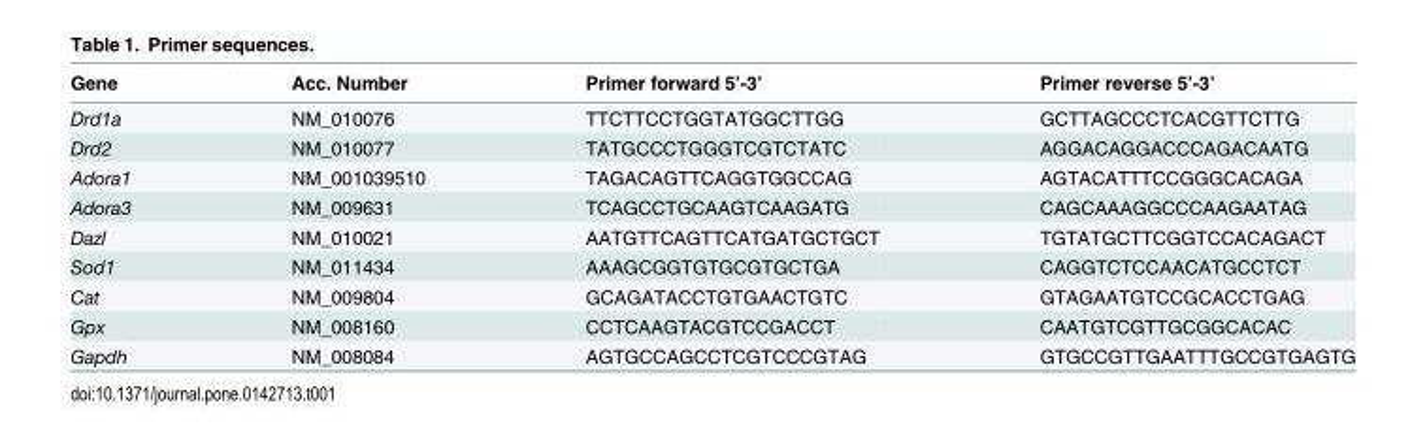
<table><thead><tr><td>Gene</td><td>Acc. Number</td><td>Primer forward 5’-3’</td><td>Primer reverse 5’-3’</td></tr></thead><tbody><tr><td>Drd1a</td><td>NM_010076</td><td>TTCTTCCTGGTATGGCTTGG</td><td>GCTTAGCCCTCACGTTCTTG</td></tr><tr><td>Drd2</td><td>NM_010077</td><td>TATGCCCTGGGTCGTCTATC</td><td>AGGACAGGACCCAGACAATG</td></tr><tr><td>Adora1</td><td>NM_001039510</td><td>TAGACAGTTCAGGTGGCCAG</td><td>AGTACATTTCCGGGCACAGA</td></tr><tr><td>Adora3</td><td>NM_009631</td><td>TCAGCCTGCAAGTCAAGATG</td><td>CAGCAAAGGCCCAAGAATAG</td></tr><tr><td>Dazl</td><td>NM_010021</td><td>AATGTTCAGTTCATGATGCTGCT</td><td>TGTATGCTTCGGTCCACAGACT</td></tr><tr><td>Sod1</td><td>NM_011434</td><td>AAAGCGGTGTGCGTGCTGA</td><td>CAGGTCTCCAACATGCCTCT</td></tr><tr><td>Cat</td><td>NM_009804</td><td>GCAGATACCTGTGAACTGTC</td><td>GTAGAATGTCCGCACCTGAG</td></tr><tr><td>Gpx</td><td>NM_008160</td><td>CCTCAAGTACGTCCGACCT</td><td>CAATGTCGTTGCGGCACAC</td></tr><tr><td>Gapdh</td><td>NM_008084</td><td>AGTGCCAGCCTCGTCCCGTAG</td><td>GTGCCGTTGAATTTGCCGTGAGTG</td></tr></tbody></table>